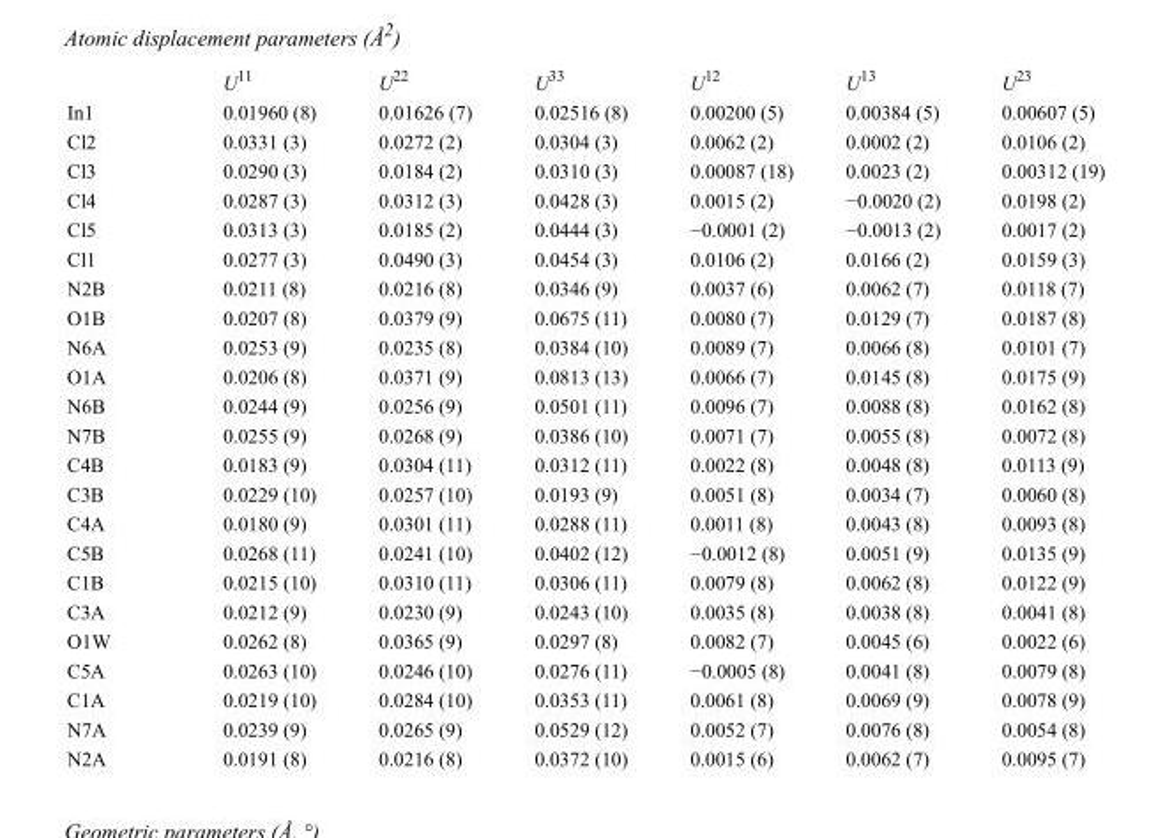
<table><thead><tr><td></td><td>U<sup>11</sup></td><td>U<sup>22</sup></td><td>U<sup>33</sup></td><td>U<sup>12</sup></td><td>U<sup>13</sup></td><td>U<sup>23</sup></td></tr></thead><tbody><tr><td>In1</td><td>0.01960 (8)</td><td>0.01626 (7)</td><td>0.02516 (8)</td><td>0.00200 (5)</td><td>0.00384 (5)</td><td>0.00607 (5)</td></tr><tr><td>Cl2</td><td>0.0331 (3)</td><td>0.0272 (2)</td><td>0.0304 (3)</td><td>0.0062 (2)</td><td>0.0002 (2)</td><td>0.0106 (2)</td></tr><tr><td>Cl3</td><td>0.0290 (3)</td><td>0.0184 (2)</td><td>0.0310 (3)</td><td>0.00087 (18)</td><td>0.0023 (2)</td><td>0.00312 (19)</td></tr><tr><td>Cl4</td><td>0.0287 (3)</td><td>0.0312 (3)</td><td>0.0428 (3)</td><td>0.0015 (2)</td><td>−0.0020 (2)</td><td>0.0198 (2)</td></tr><tr><td>Cl5</td><td>0.0313 (3)</td><td>0.0185 (2)</td><td>0.0444 (3)</td><td>−0.0001 (2)</td><td>−0.0013 (2)</td><td>0.0017 (2)</td></tr><tr><td>Cl1</td><td>0.0277 (3)</td><td>0.0490 (3)</td><td>0.0454 (3)</td><td>0.0106 (2)</td><td>0.0166 (2)</td><td>0.0159 (3)</td></tr><tr><td>N2B</td><td>0.0211 (8)</td><td>0.0216 (8)</td><td>0.0346 (9)</td><td>0.0037 (6)</td><td>0.0062 (7)</td><td>0.0118 (7)</td></tr><tr><td>O1B</td><td>0.0207 (8)</td><td>0.0379 (9)</td><td>0.0675 (11)</td><td>0.0080 (7)</td><td>0.0129 (7)</td><td>0.0187 (8)</td></tr><tr><td>N6A</td><td>0.0253 (9)</td><td>0.0235 (8)</td><td>0.0384 (10)</td><td>0.0089 (7)</td><td>0.0066 (8)</td><td>0.0101 (7)</td></tr><tr><td>O1A</td><td>0.0206 (8)</td><td>0.0371 (9)</td><td>0.0813 (13)</td><td>0.0066 (7)</td><td>0.0145 (8)</td><td>0.0175 (9)</td></tr><tr><td>N6B</td><td>0.0244 (9)</td><td>0.0256 (9)</td><td>0.0501 (11)</td><td>0.0096 (7)</td><td>0.0088 (8)</td><td>0.0162 (8)</td></tr><tr><td>N7B</td><td>0.0255 (9)</td><td>0.0268 (9)</td><td>0.0386 (10)</td><td>0.0071 (7)</td><td>0.0055 (8)</td><td>0.0072 (8)</td></tr><tr><td>C4B</td><td>0.0183 (9)</td><td>0.0304 (11)</td><td>0.0312 (11)</td><td>0.0022 (8)</td><td>0.0048 (8)</td><td>0.0113 (9)</td></tr><tr><td>C3B</td><td>0.0229 (10)</td><td>0.0257 (10)</td><td>0.0193 (9)</td><td>0.0051 (8)</td><td>0.0034 (7)</td><td>0.0060 (8)</td></tr><tr><td>C4A</td><td>0.0180 (9)</td><td>0.0301 (11)</td><td>0.0288 (11)</td><td>0.0011 (8)</td><td>0.0043 (8)</td><td>0.0093 (8)</td></tr><tr><td>C5B</td><td>0.0268 (11)</td><td>0.0241 (10)</td><td>0.0402 (12)</td><td>−0.0012 (8)</td><td>0.0051 (9)</td><td>0.0135 (9)</td></tr><tr><td>C1B</td><td>0.0215 (10)</td><td>0.0310 (11)</td><td>0.0306 (11)</td><td>0.0079 (8)</td><td>0.0062 (8)</td><td>0.0122 (9)</td></tr><tr><td>C3A</td><td>0.0212 (9)</td><td>0.0230 (9)</td><td>0.0243 (10)</td><td>0.0035 (8)</td><td>0.0038 (8)</td><td>0.0041 (8)</td></tr><tr><td>O1W</td><td>0.0262 (8)</td><td>0.0365 (9)</td><td>0.0297 (8)</td><td>0.0082 (7)</td><td>0.0045 (6)</td><td>0.0022 (6)</td></tr><tr><td>C5A</td><td>0.0263 (10)</td><td>0.0246 (10)</td><td>0.0276 (11)</td><td>−0.0005 (8)</td><td>0.0041 (8)</td><td>0.0079 (8)</td></tr><tr><td>C1A</td><td>0.0219 (10)</td><td>0.0284 (10)</td><td>0.0353 (11)</td><td>0.0061 (8)</td><td>0.0069 (9)</td><td>0.0078 (9)</td></tr><tr><td>N7A</td><td>0.0239 (9)</td><td>0.0265 (9)</td><td>0.0529 (12)</td><td>0.0052 (7)</td><td>0.0076 (8)</td><td>0.0054 (8)</td></tr><tr><td>N2A</td><td>0.0191 (8)</td><td>0.0216 (8)</td><td>0.0372 (10)</td><td>0.0015 (6)</td><td>0.0062 (7)</td><td>0.0095 (7)</td></tr></tbody></table>